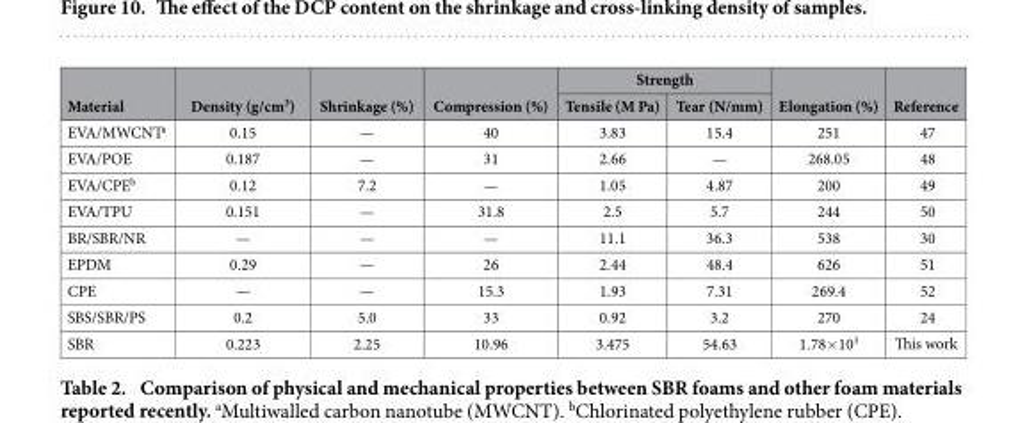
<table><thead><tr><td rowspan="2">Material</td><td rowspan="2">Density (g/cm<sup>3</sup>)</td><td rowspan="2">Shrinkage (%)</td><td rowspan="2">Compression (%)</td><td colspan="2">Strength</td><td rowspan="2">Elongation (%)</td><td rowspan="2">Reference</td></tr><tr><td>Tensile (M Pa)</td><td>Tear (N/mm)</td></tr></thead><tbody><tr><td>EVA/MWCNT<sup>a</sup></td><td>0.15</td><td>—</td><td>40</td><td>3.83</td><td>15.4</td><td>251</td><td>47</td></tr><tr><td>EVA/POE</td><td>0.187</td><td>—</td><td>31</td><td>2.66</td><td>—</td><td>268.05</td><td>48</td></tr><tr><td>EVA/CPE<sup>b</sup></td><td>0.12</td><td>7.2</td><td>—</td><td>1.05</td><td>4.87</td><td>200</td><td>49</td></tr><tr><td>EVA/TPU</td><td>0.151</td><td>—</td><td>31.8</td><td>2.5</td><td>5.7</td><td>244</td><td>50</td></tr><tr><td>BR/SBR/NR</td><td>—</td><td>—</td><td>—</td><td>11.1</td><td>36.3</td><td>538</td><td>30</td></tr><tr><td>EPDM</td><td>0.29</td><td>—</td><td>26</td><td>2.44</td><td>48.4</td><td>626</td><td>51</td></tr><tr><td>CPE</td><td>—</td><td>—</td><td>15.3</td><td>1.93</td><td>7.31</td><td>269.4</td><td>52</td></tr><tr><td>SBS/SBR/PS</td><td>0.2</td><td>5.0</td><td>33</td><td>0.92</td><td>3.2</td><td>270</td><td>24</td></tr><tr><td>SBR</td><td>0.223</td><td>2.25</td><td>10.96</td><td>3.475</td><td>54.63</td><td>1.78× 10<sup>3</sup></td><td>This work</td></tr></tbody></table>